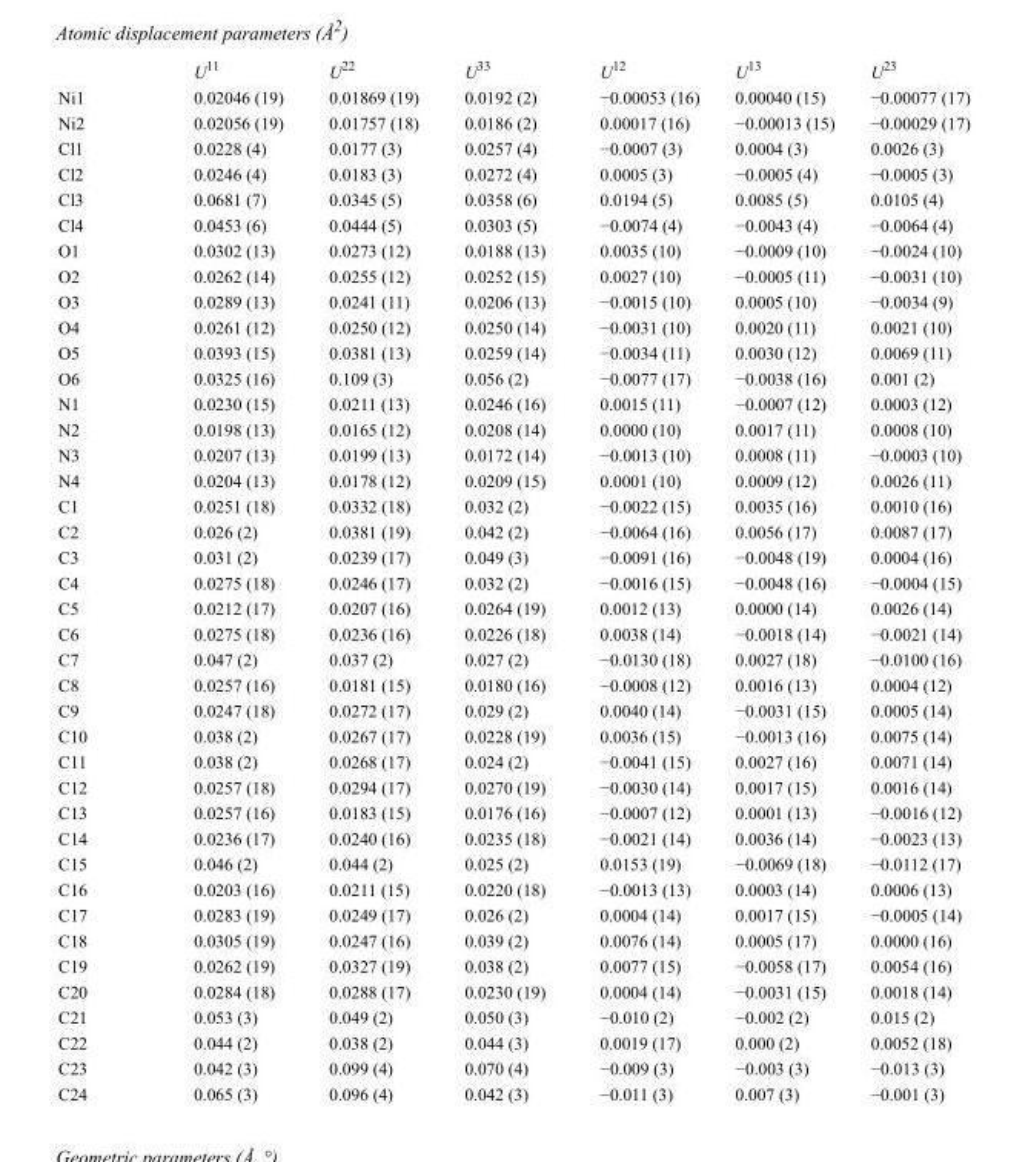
<table><thead><tr><td></td><td>U<sup>11</sup></td><td>U<sup>22</sup></td><td>U<sup>33</sup></td><td>U<sup>12</sup></td><td>U<sup>13</sup></td><td>U<sup>23</sup></td></tr></thead><tbody><tr><td>Ni1</td><td>0.02046 (19)</td><td>0.01869 (19)</td><td>0.0192 (2)</td><td>−0.00053 (16)</td><td>0.00040 (15)</td><td>−0.00077 (17)</td></tr><tr><td>Ni2</td><td>0.02056 (19)</td><td>0.01757 (18)</td><td>0.0186 (2)</td><td>0.00017 (16)</td><td>−0.00013 (15)</td><td>−0.00029 (17)</td></tr><tr><td>Cl1</td><td>0.0228 (4)</td><td>0.0177 (3)</td><td>0.0257 (4)</td><td>−0.0007 (3)</td><td>0.0004 (3)</td><td>0.0026 (3)</td></tr><tr><td>Cl2</td><td>0.0246 (4)</td><td>0.0183 (3)</td><td>0.0272 (4)</td><td>0.0005 (3)</td><td>−0.0005 (4)</td><td>−0.0005 (3)</td></tr><tr><td>Cl3</td><td>0.0681 (7)</td><td>0.0345 (5)</td><td>0.0358 (6)</td><td>0.0194 (5)</td><td>0.0085 (5)</td><td>0.0105 (4)</td></tr><tr><td>Cl4</td><td>0.0453 (6)</td><td>0.0444 (5)</td><td>0.0303 (5)</td><td>−0.0074 (4)</td><td>−0.0043 (4)</td><td>−0.0064 (4)</td></tr><tr><td>O1</td><td>0.0302 (13)</td><td>0.0273 (12)</td><td>0.0188 (13)</td><td>0.0035 (10)</td><td>−0.0009 (10)</td><td>−0.0024 (10)</td></tr><tr><td>O2</td><td>0.0262 (14)</td><td>0.0255 (12)</td><td>0.0252 (15)</td><td>0.0027 (10)</td><td>−0.0005 (11)</td><td>−0.0031 (10)</td></tr><tr><td>O3</td><td>0.0289 (13)</td><td>0.0241 (11)</td><td>0.0206 (13)</td><td>−0.0015 (10)</td><td>0.0005 (10)</td><td>−0.0034 (9)</td></tr><tr><td>O4</td><td>0.0261 (12)</td><td>0.0250 (12)</td><td>0.0250 (14)</td><td>−0.0031 (10)</td><td>0.0020 (11)</td><td>0.0021 (10)</td></tr><tr><td>O5</td><td>0.0393 (15)</td><td>0.0381 (13)</td><td>0.0259 (14)</td><td>−0.0034 (11)</td><td>0.0030 (12)</td><td>0.0069 (11)</td></tr><tr><td>O6</td><td>0.0325 (16)</td><td>0.109 (3)</td><td>0.056 (2)</td><td>−0.0077 (17)</td><td>−0.0038 (16)</td><td>0.001 (2)</td></tr><tr><td>N1</td><td>0.0230 (15)</td><td>0.0211 (13)</td><td>0.0246 (16)</td><td>0.0015 (11)</td><td>−0.0007 (12)</td><td>0.0003 (12)</td></tr><tr><td>N2</td><td>0.0198 (13)</td><td>0.0165 (12)</td><td>0.0208 (14)</td><td>0.0000 (10)</td><td>0.0017 (11)</td><td>0.0008 (10)</td></tr><tr><td>N3</td><td>0.0207 (13)</td><td>0.0199 (13)</td><td>0.0172 (14)</td><td>−0.0013 (10)</td><td>0.0008 (11)</td><td>−0.0003 (10)</td></tr><tr><td>N4</td><td>0.0204 (13)</td><td>0.0178 (12)</td><td>0.0209 (15)</td><td>0.0001 (10)</td><td>0.0009 (12)</td><td>0.0026 (11)</td></tr><tr><td>C1</td><td>0.0251 (18)</td><td>0.0332 (18)</td><td>0.032 (2)</td><td>−0.0022 (15)</td><td>0.0035 (16)</td><td>0.0010 (16)</td></tr><tr><td>C2</td><td>0.026 (2)</td><td>0.0381 (19)</td><td>0.042 (2)</td><td>−0.0064 (16)</td><td>0.0056 (17)</td><td>0.0087 (17)</td></tr><tr><td>C3</td><td>0.031 (2)</td><td>0.0239 (17)</td><td>0.049 (3)</td><td>−0.0091 (16)</td><td>−0.0048 (19)</td><td>0.0004 (16)</td></tr><tr><td>C4</td><td>0.0275 (18)</td><td>0.0246 (17)</td><td>0.032 (2)</td><td>−0.0016 (15)</td><td>−0.0048 (16)</td><td>−0.0004 (15)</td></tr><tr><td>C5</td><td>0.0212 (17)</td><td>0.0207 (16)</td><td>0.0264 (19)</td><td>0.0012 (13)</td><td>0.0000 (14)</td><td>0.0026 (14)</td></tr><tr><td>C6</td><td>0.0275 (18)</td><td>0.0236 (16)</td><td>0.0226 (18)</td><td>0.0038 (14)</td><td>−0.0018 (14)</td><td>−0.0021 (14)</td></tr><tr><td>C7</td><td>0.047 (2)</td><td>0.037 (2)</td><td>0.027 (2)</td><td>−0.0130 (18)</td><td>0.0027 (18)</td><td>−0.0100 (16)</td></tr><tr><td>C8</td><td>0.0257 (16)</td><td>0.0181 (15)</td><td>0.0180 (16)</td><td>−0.0008 (12)</td><td>0.0016 (13)</td><td>0.0004 (12)</td></tr><tr><td>C9</td><td>0.0247 (18)</td><td>0.0272 (17)</td><td>0.029 (2)</td><td>0.0040 (14)</td><td>−0.0031 (15)</td><td>0.0005 (14)</td></tr><tr><td>C10</td><td>0.038 (2)</td><td>0.0267 (17)</td><td>0.0228 (19)</td><td>0.0036 (15)</td><td>−0.0013 (16)</td><td>0.0075 (14)</td></tr><tr><td>C11</td><td>0.038 (2)</td><td>0.0268 (17)</td><td>0.024 (2)</td><td>−0.0041 (15)</td><td>0.0027 (16)</td><td>0.0071 (14)</td></tr><tr><td>C12</td><td>0.0257 (18)</td><td>0.0294 (17)</td><td>0.0270 (19)</td><td>−0.0030 (14)</td><td>0.0017 (15)</td><td>0.0016 (14)</td></tr><tr><td>C13</td><td>0.0257 (16)</td><td>0.0183 (15)</td><td>0.0176 (16)</td><td>−0.0007 (12)</td><td>0.0001 (13)</td><td>−0.0016 (12)</td></tr><tr><td>C14</td><td>0.0236 (17)</td><td>0.0240 (16)</td><td>0.0235 (18)</td><td>−0.0021 (14)</td><td>0.0036 (14)</td><td>−0.0023 (13)</td></tr><tr><td>C15</td><td>0.046 (2)</td><td>0.044 (2)</td><td>0.025 (2)</td><td>0.0153 (19)</td><td>−0.0069 (18)</td><td>−0.0112 (17)</td></tr><tr><td>C16</td><td>0.0203 (16)</td><td>0.0211 (15)</td><td>0.0220 (18)</td><td>−0.0013 (13)</td><td>0.0003 (14)</td><td>0.0006 (13)</td></tr><tr><td>C17</td><td>0.0283 (19)</td><td>0.0249 (17)</td><td>0.026 (2)</td><td>0.0004 (14)</td><td>0.0017 (15)</td><td>−0.0005 (14)</td></tr><tr><td>C18</td><td>0.0305 (19)</td><td>0.0247 (16)</td><td>0.039 (2)</td><td>0.0076 (14)</td><td>0.0005 (17)</td><td>0.0000 (16)</td></tr><tr><td>C19</td><td>0.0262 (19)</td><td>0.0327 (19)</td><td>0.038 (2)</td><td>0.0077 (15)</td><td>−0.0058 (17)</td><td>0.0054 (16)</td></tr><tr><td>C20</td><td>0.0284 (18)</td><td>0.0288 (17)</td><td>0.0230 (19)</td><td>0.0004 (14)</td><td>−0.0031 (15)</td><td>0.0018 (14)</td></tr><tr><td>C21</td><td>0.053 (3)</td><td>0.049 (2)</td><td>0.050 (3)</td><td>−0.010 (2)</td><td>−0.002 (2)</td><td>0.015 (2)</td></tr><tr><td>C22</td><td>0.044 (2)</td><td>0.038 (2)</td><td>0.044 (3)</td><td>0.0019 (17)</td><td>0.000 (2)</td><td>0.0052 (18)</td></tr><tr><td>C23</td><td>0.042 (3)</td><td>0.099 (4)</td><td>0.070 (4)</td><td>−0.009 (3)</td><td>−0.003 (3)</td><td>−0.013 (3)</td></tr><tr><td>C24</td><td>0.065 (3)</td><td>0.096 (4)</td><td>0.042 (3)</td><td>−0.011 (3)</td><td>0.007 (3)</td><td>−0.001 (3)</td></tr></tbody></table>